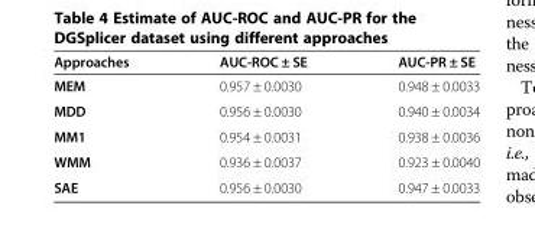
<table><thead><tr><td>Approaches</td><td>AUC-ROC ± SE</td><td>AUC-PR ± SE</td></tr></thead><tbody><tr><td>MEM</td><td>0.957 ± 0.0030</td><td>0.948 ± 0.0033</td></tr><tr><td>MDD</td><td>0.956 ± 0.0030</td><td>0.940 ± 0.0034</td></tr><tr><td>MM1</td><td>0.954 ± 0.0031</td><td>0.938 ± 0.0036</td></tr><tr><td>WMM</td><td>0.936 ± 0.0037</td><td>0.923 ± 0.0040</td></tr><tr><td>SAE</td><td>0.956 ± 0.0030</td><td>0.947 ± 0.0033</td></tr></tbody></table>